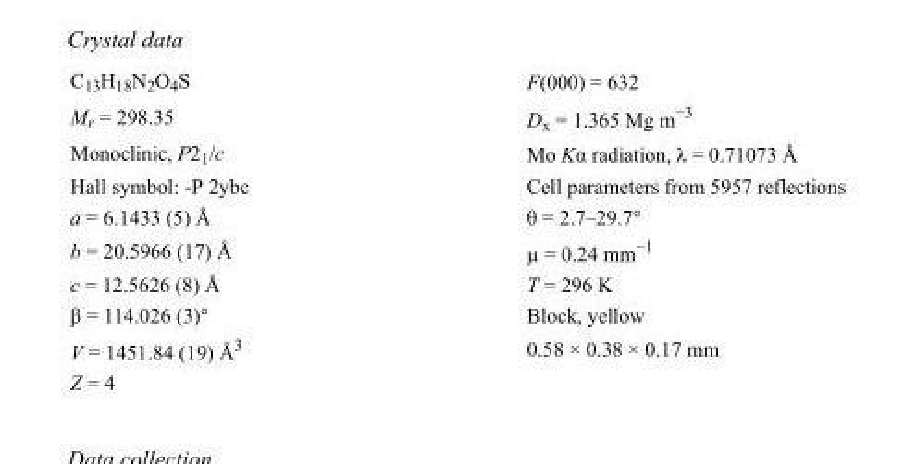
<table><tbody><tr><td>C<sub>13</sub>H<sub>18</sub>N<sub>2</sub>O<sub>4</sub>S</td><td>F(000) = 632</td></tr><tr><td>M<sub>r</sub> = 298.35</td><td>D<sub>x</sub> = 1.365 Mg m<sup>−3</sup></td></tr><tr><td>Monoclinic, P2<sub>1</sub>/c</td><td>Mo Kα radiation, λ = 0.71073 Å</td></tr><tr><td>Hall symbol: -P 2ybc</td><td>Cell parameters from 5957 reflections</td></tr><tr><td>a = 6.1433 (5) Å</td><td>θ = 2.7–29.7°</td></tr><tr><td>b = 20.5966 (17) Å</td><td>µ = 0.24 mm<sup>−1</sup></td></tr><tr><td>c = 12.5626 (8) Å</td><td>T = 296 K</td></tr><tr><td>β = 114.026 (3)°</td><td>Block, yellow</td></tr><tr><td>V = 1451.84 (19) Å<sup>3</sup></td><td>0.58 × 0.38 × 0.17 mm</td></tr><tr><td>Z = 4</td><td></td></tr></tbody></table>